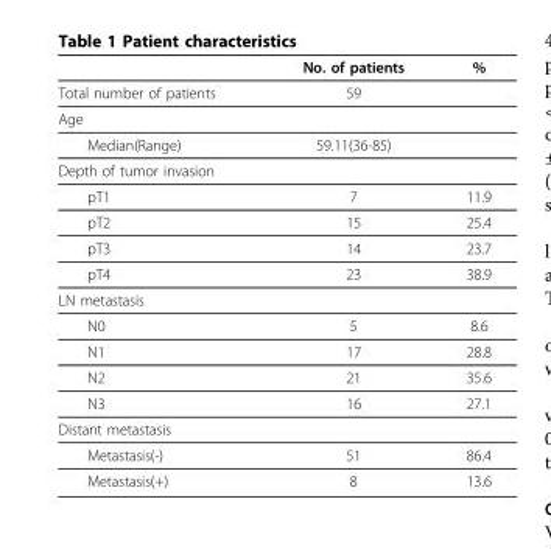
<table><thead><tr><td></td><td>No. of patients</td><td>%</td></tr></thead><tbody><tr><td>Total number of patients</td><td>59</td><td></td></tr><tr><td colspan="3">Age</td></tr><tr><td>Median(Range)</td><td>59.11(36-85)</td><td></td></tr><tr><td colspan="3">Depth of tumor invasion</td></tr><tr><td>pT1</td><td>7</td><td>11.9</td></tr><tr><td>pT2</td><td>15</td><td>25.4</td></tr><tr><td>pT3</td><td>14</td><td>23.7</td></tr><tr><td>pT4</td><td>23</td><td>38.9</td></tr><tr><td colspan="3">LN metastasis</td></tr><tr><td>N0</td><td>5</td><td>8.6</td></tr><tr><td>N1</td><td>17</td><td>28.8</td></tr><tr><td>N2</td><td>21</td><td>35.6</td></tr><tr><td>N3</td><td>16</td><td>27.1</td></tr><tr><td colspan="3">Distant metastasis</td></tr><tr><td>Metastasis(-)</td><td>51</td><td>86.4</td></tr><tr><td>Metastasis(+)</td><td>8</td><td>13.6</td></tr></tbody></table>